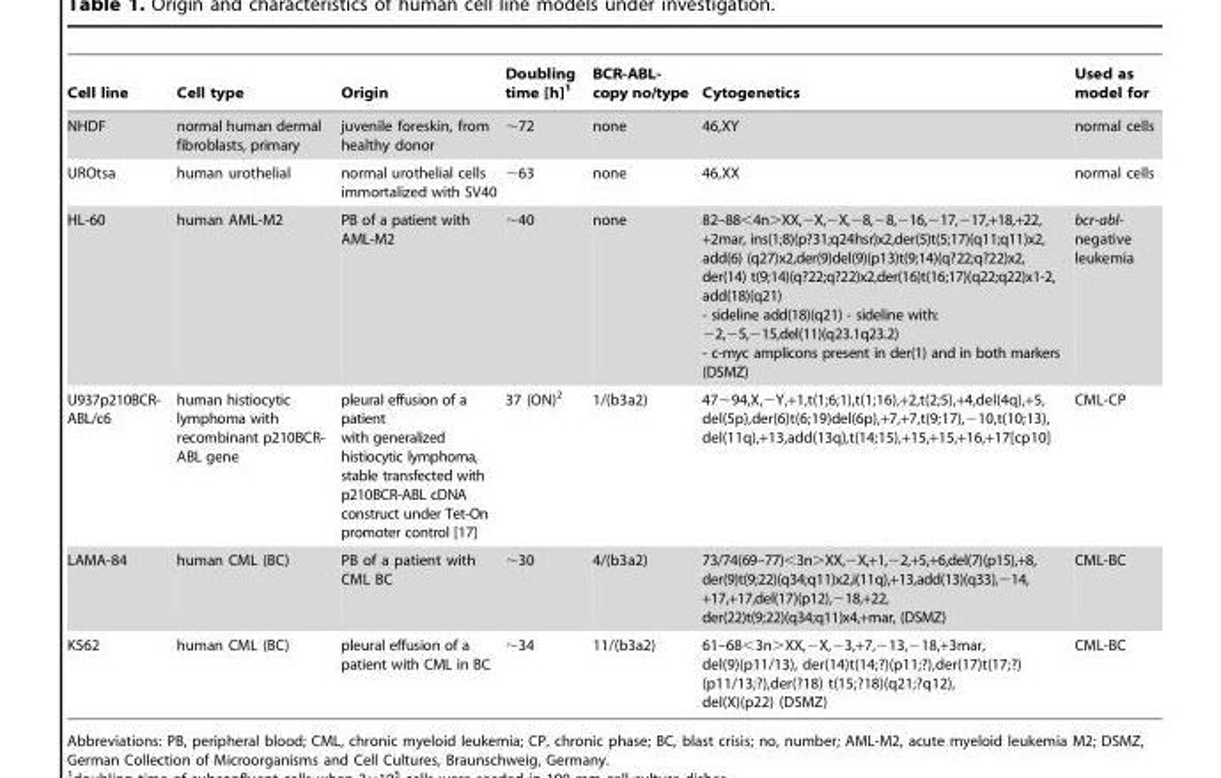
<table><thead><tr><td>Cell line</td><td>Cell type</td><td>Origin</td><td>Doubling time [h]<sup>1</sup></td><td>BCR-ABL- copy no/type</td><td>Cytogenetics</td><td>Used as model for</td></tr></thead><tbody><tr><td>NHDF</td><td>normal human dermal fibroblasts, primary</td><td>juvenile foreskin, from healthy donor</td><td>∼72</td><td>none</td><td>46,XY</td><td>normal cells</td></tr><tr><td>UROtsa</td><td>human urothelial</td><td>normal urothelial cells immortalized with SV40</td><td>∼63</td><td>none</td><td>46,XX</td><td>normal cells</td></tr><tr><td>HL-60</td><td>human AML-M2</td><td>PB of a patient with AML-M2</td><td>∼40</td><td>none</td><td>82–88&lt;4n&gt;XX,−X,−X,−8,−8,−16,−17,−17,+18,+22, +2mar, ins(1;8)(p?31;q24hsr)x2,der(5)t(5;17)(q11;q11)x2, add(6) (q27)x2,der(9)del(9)(p13)t(9;14)(q?22;q?22)x2, der(14) t(9;14)(q?22;q?22)x2,der(16)t(16;17)(q22;q22)x1-2, add(18)(q21) - sideline add(18)(q21) - sideline with: −2,−5,−15,del(11)(q23.1q23.2) - c-myc amplicons present in der(1) and in both markers (DSMZ)</td><td>bcr-abl- negative leukemia</td></tr><tr><td>U937p210BCR- ABL/c6</td><td>human histiocytic lymphoma with recombinant p210BCR- ABL gene</td><td>pleural effusion of a patient with generalized histiocytic lymphoma, stable transfected with p210BCR-ABL cDNA construct under Tet-On promoter control [17]</td><td>37 (ON)<sup>2</sup></td><td>1/(b3a2)</td><td>47∼94,X,−Y,+1,t(1;6;1),t(1;16),+2,t(2;5),+4,del(4q),+5, del(5p),der(6)t(6;19)del(6p),+7,+7,t(9;17),−10,t(10;13), del(11q),+13,add(13q),t(14;15),+15,+15,+16,+17[cp10]</td><td>CML-CP</td></tr><tr><td>LAMA-84</td><td>human CML (BC)</td><td>PB of a patient with CML BC</td><td>∼30</td><td>4/(b3a2)</td><td>73/74(69–77)&lt;3n&gt;XX,−X,+1,−2,+5,+6,del(7)(p15),+8, der(9)t(9;22)(q34;q11)x2,i(11q),+13,add(13)(q33),−14, +17,+17,del(17)(p12),−18,+22, der(22)t(9;22)(q34;q11)x4,+mar, (DSMZ)</td><td>CML-BC</td></tr><tr><td>K562</td><td>human CML (BC)</td><td>pleural effusion of a patient with CML in BC</td><td>∼34</td><td>11/(b3a2)</td><td>61–68&lt;3n&gt;XX,−X,−3,+7,−13,−18,+3mar, del(9)(p11/13), der(14)t(14;?)(p11;?),der(17)t(17;?) (p11/13;?),der(?18) t(15;?18)(q21;?q12), del(X)(p22) (DSMZ)</td><td>CML-BC</td></tr></tbody></table>